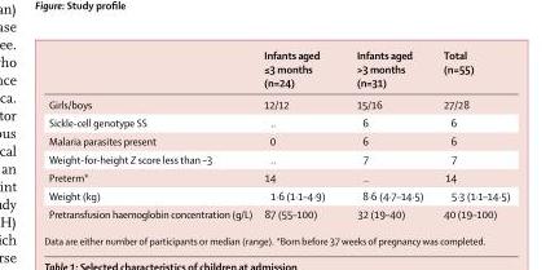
<table><thead><tr><td></td><td>Infants aged ≤3 months (n=24)</td><td>Infants aged &gt;3 months (n=31)</td><td>Total (n=55)</td></tr></thead><tbody><tr><td>Girls/boys</td><td>12/12</td><td>15/16</td><td>27/28</td></tr><tr><td>Sickle-cell genotype SS</td><td>..</td><td>6</td><td>6</td></tr><tr><td>Malaria parasites present</td><td>0</td><td>6</td><td>6</td></tr><tr><td>Weight-for-height Z score less than –3</td><td>..</td><td>7</td><td>7</td></tr><tr><td>Preterm*</td><td>14</td><td>..</td><td>14</td></tr><tr><td>Weight (kg)</td><td>1·6 (1·1–4·9)</td><td>8·6 (4·7–14·5)</td><td>5·3 (1·1–14·5)</td></tr><tr><td>Pretransfusion haemoglobin concentration (g/L)</td><td>87 (55–100)</td><td>32 (19–40)</td><td>40 (19–100)</td></tr></tbody></table>